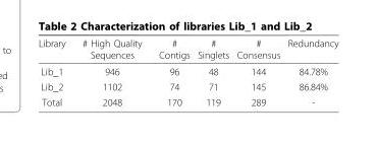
<table><thead><tr><td>Library</td><td># High Quality Sequences</td><td># Contigs</td><td># Singlets</td><td># Consensus</td><td>Redundancy</td></tr></thead><tbody><tr><td>Lib_1</td><td>946</td><td>96</td><td>48</td><td>144</td><td>84.78%</td></tr><tr><td>Lib_2</td><td>1102</td><td>74</td><td>71</td><td>145</td><td>86.84%</td></tr><tr><td>Total</td><td>2048</td><td>170</td><td>119</td><td>289</td><td>-</td></tr></tbody></table>